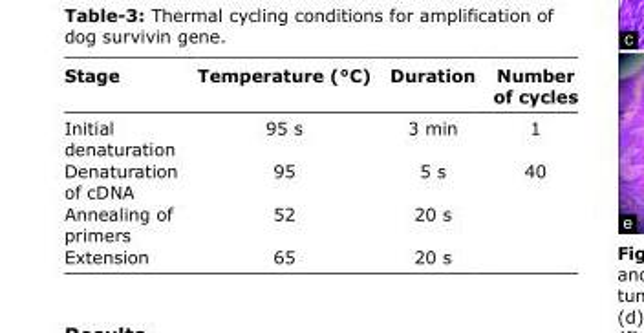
<table><thead><tr><td>Stage</td><td>Temperature (°C)</td><td>Duration</td><td>Number of cycles</td></tr></thead><tbody><tr><td>Initial denaturation</td><td>95 s</td><td>3 min</td><td>1</td></tr><tr><td>Denaturation of cDNA</td><td>95</td><td>5 s</td><td>40</td></tr><tr><td>Annealing of primers</td><td>52</td><td>20 s</td><td></td></tr><tr><td>Extension</td><td>65</td><td>20 s</td><td></td></tr></tbody></table>